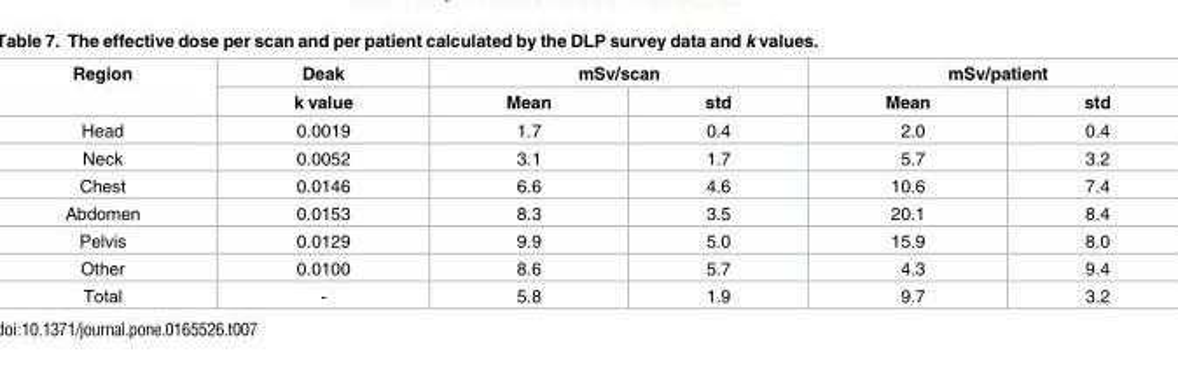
<table><thead><tr><td rowspan="2">Region</td><td rowspan="2">Deak k value</td><td colspan="2">mSv/scan</td><td colspan="2">mSv/patient</td></tr><tr><td>Mean</td><td>std</td><td>Mean</td><td>std</td></tr></thead><tbody><tr><td>Head</td><td>0.0019</td><td>1.7</td><td>0.4</td><td>2.0</td><td>0.4</td></tr><tr><td>Neck</td><td>0.0052</td><td>3.1</td><td>1.7</td><td>5.7</td><td>3.2</td></tr><tr><td>Chest</td><td>0.0146</td><td>6.6</td><td>4.6</td><td>10.6</td><td>7.4</td></tr><tr><td>Abdomen</td><td>0.0153</td><td>8.3</td><td>3.5</td><td>20.1</td><td>8.4</td></tr><tr><td>Pelvis</td><td>0.0129</td><td>9.9</td><td>5.0</td><td>15.9</td><td>8.0</td></tr><tr><td>Other</td><td>0.0100</td><td>8.6</td><td>5.7</td><td>4.3</td><td>9.4</td></tr><tr><td>Total</td><td>-</td><td>5.8</td><td>1.9</td><td>9.7</td><td>3.2</td></tr></tbody></table>